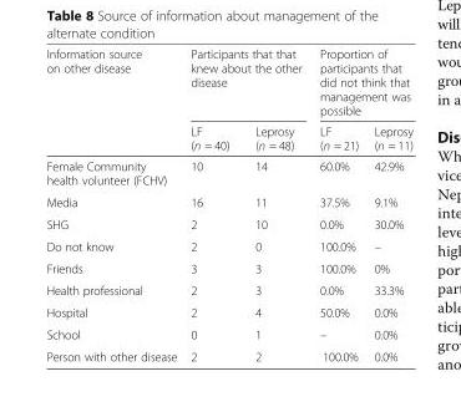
<table><thead><tr><td rowspan="2">Information source on other disease</td><td colspan="2">Participants that that knew about the other disease</td><td colspan="2">Proportion of participants that did not think that management was possible</td></tr><tr><td>LF (n = 40)</td><td>Leprosy (n = 48)</td><td>LF (n = 21)</td><td>Leprosy (n = 11)</td></tr></thead><tbody><tr><td>Female Community health volunteer (FCHV)</td><td>10</td><td>14</td><td>60.0%</td><td>42.9%</td></tr><tr><td>Media</td><td>16</td><td>11</td><td>37.5%</td><td>9.1%</td></tr><tr><td>SHG</td><td>2</td><td>10</td><td>0.0%</td><td>30.0%</td></tr><tr><td>Do not know</td><td>2</td><td>0</td><td>100.0%</td><td>–</td></tr><tr><td>Friends</td><td>3</td><td>3</td><td>100.0%</td><td>0%</td></tr><tr><td>Health professional</td><td>2</td><td>3</td><td>0.0%</td><td>33.3%</td></tr><tr><td>Hospital</td><td>2</td><td>4</td><td>50.0%</td><td>0.0%</td></tr><tr><td>School</td><td>0</td><td>1</td><td>–</td><td>0.0%</td></tr><tr><td>Person with other disease</td><td>2</td><td>2</td><td>100.0%</td><td>0.0%</td></tr></tbody></table>